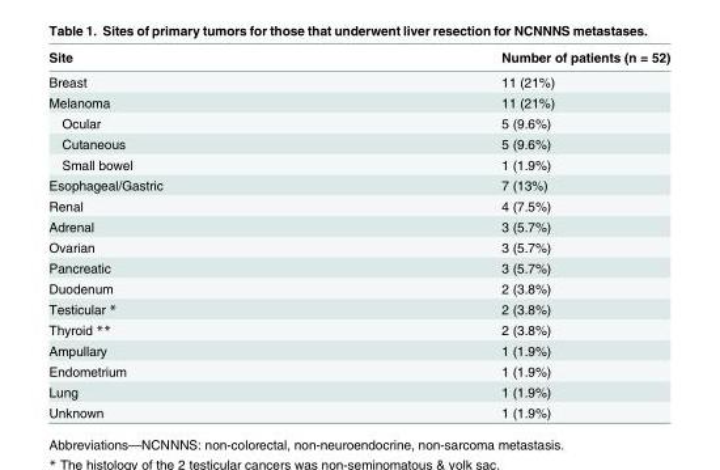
<table><thead><tr><td>Site</td><td>Number of patients (n = 52)</td></tr></thead><tbody><tr><td>Breast</td><td>11 (21%)</td></tr><tr><td>Melanoma</td><td>11 (21%)</td></tr><tr><td>Ocular</td><td>5 (9.6%)</td></tr><tr><td>Cutaneous</td><td>5 (9.6%)</td></tr><tr><td>Small bowel</td><td>1 (1.9%)</td></tr><tr><td>Esophageal/Gastric</td><td>7 (13%)</td></tr><tr><td>Renal</td><td>4 (7.5%)</td></tr><tr><td>Adrenal</td><td>3 (5.7%)</td></tr><tr><td>Ovarian</td><td>3 (5.7%)</td></tr><tr><td>Pancreatic</td><td>3 (5.7%)</td></tr><tr><td>Duodenum</td><td>2 (3.8%)</td></tr><tr><td>Testicular *</td><td>2 (3.8%)</td></tr><tr><td>Thyroid **</td><td>2 (3.8%)</td></tr><tr><td>Ampullary</td><td>1 (1.9%)</td></tr><tr><td>Endometrium</td><td>1 (1.9%)</td></tr><tr><td>Lung</td><td>1 (1.9%)</td></tr><tr><td>Unknown</td><td>1 (1.9%)</td></tr></tbody></table>